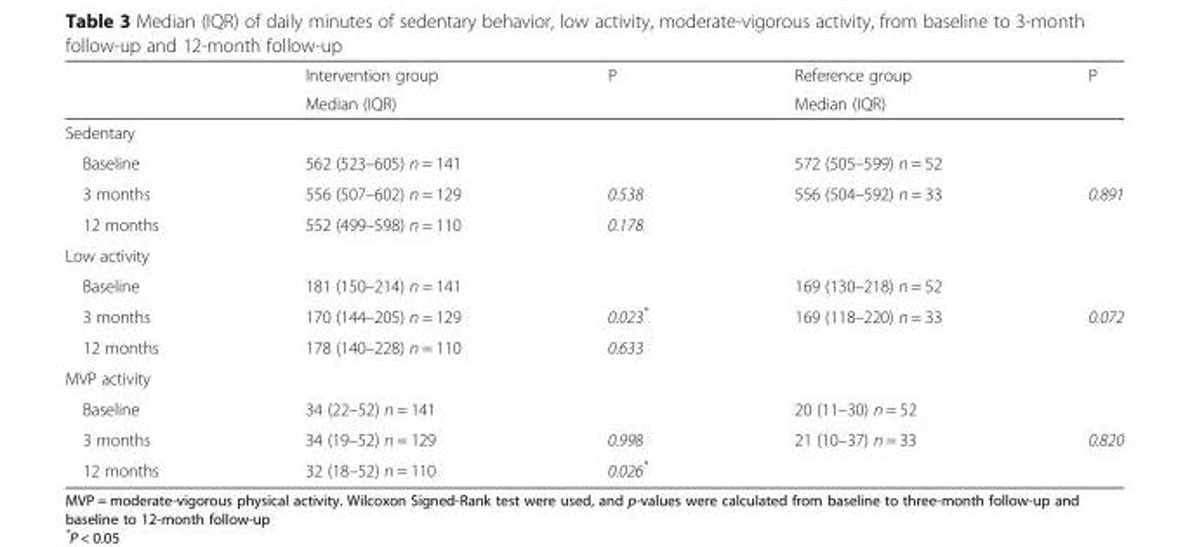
<table><thead><tr><td rowspan="2"></td><td rowspan="2">Intervention group Median (IQR)</td><td rowspan="2">P</td><td rowspan="2">Reference group Median (IQR)</td><td rowspan="2">P</td></tr><tr></tr></thead><tbody><tr><td colspan="5">Sedentary</td></tr><tr><td>Baseline</td><td>562 (523–605) n = 141</td><td></td><td>572 (505–599) n = 52</td><td></td></tr><tr><td>3 months</td><td>556 (507–602) n = 129</td><td>0.538</td><td>556 (504–592) n = 33</td><td>0.891</td></tr><tr><td>12 months</td><td>552 (499–598) n = 110</td><td>0.178</td><td></td><td></td></tr><tr><td colspan="5">Low activity</td></tr><tr><td>Baseline</td><td>181 (150–214) n = 141</td><td></td><td>169 (130–218) n = 52</td><td></td></tr><tr><td>3 months</td><td>170 (144–205) n = 129</td><td>0.023*</td><td>169 (118–220) n = 33</td><td>0.072</td></tr><tr><td>12 months</td><td>178 (140–228) n = 110</td><td>0.633</td><td></td><td></td></tr><tr><td colspan="5">MVP activity</td></tr><tr><td>Baseline</td><td>34 (22–52) n = 141</td><td></td><td>20 (11–30) n = 52</td><td></td></tr><tr><td>3 months</td><td>34 (19–52) n = 129</td><td>0.998</td><td>21 (10–37) n = 33</td><td>0.820</td></tr><tr><td>12 months</td><td>32 (18–52) n = 110</td><td>0.026*</td><td></td><td></td></tr></tbody></table>